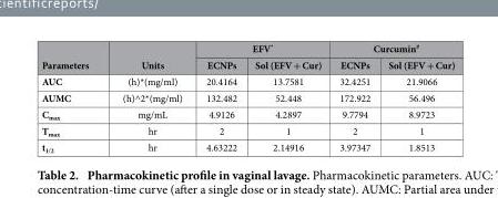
<table><thead><tr><td rowspan="2">Parameters</td><td rowspan="2">Units</td><td colspan="2">EFV*</td><td colspan="2">Curcumin#</td></tr><tr><td>ECNPs</td><td>Sol (EFV + Cur)</td><td>ECNPs</td><td>Sol (EFV + Cur)</td></tr></thead><tbody><tr><td>AUC</td><td>(h)*(mg/ml)</td><td>20.4164</td><td>13.7581</td><td>32.4251</td><td>21.9066</td></tr><tr><td>AUMC</td><td>(h)^2*(mg/ml)</td><td>132.482</td><td>52.448</td><td>172.922</td><td>56.496</td></tr><tr><td>C<sub>max</sub></td><td>mg/mL</td><td>4.9126</td><td>4.2897</td><td>9.7794</td><td>8.9723</td></tr><tr><td>T<sub>max</sub></td><td>hr</td><td>2</td><td>1</td><td>2</td><td>1</td></tr><tr><td>t<sub>1/2</sub></td><td>hr</td><td>4.63222</td><td>2.14916</td><td>3.97347</td><td>1.8513</td></tr></tbody></table>